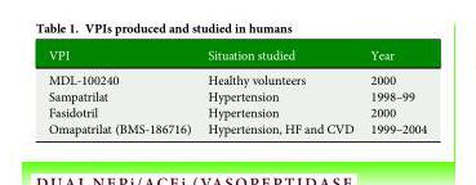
<table><thead><tr><td>VPI</td><td>Situation studied</td><td>Year</td></tr></thead><tbody><tr><td>MDL-100240</td><td>Healthy volunteers</td><td>2000</td></tr><tr><td>Sampatrilat</td><td>Hypertension</td><td>1998–99</td></tr><tr><td>Fasidotril</td><td>Hypertension</td><td>2000</td></tr><tr><td>Omapatrilat (BMS-186716)</td><td>Hypertension, HF and CVD</td><td>1999–2004</td></tr></tbody></table>